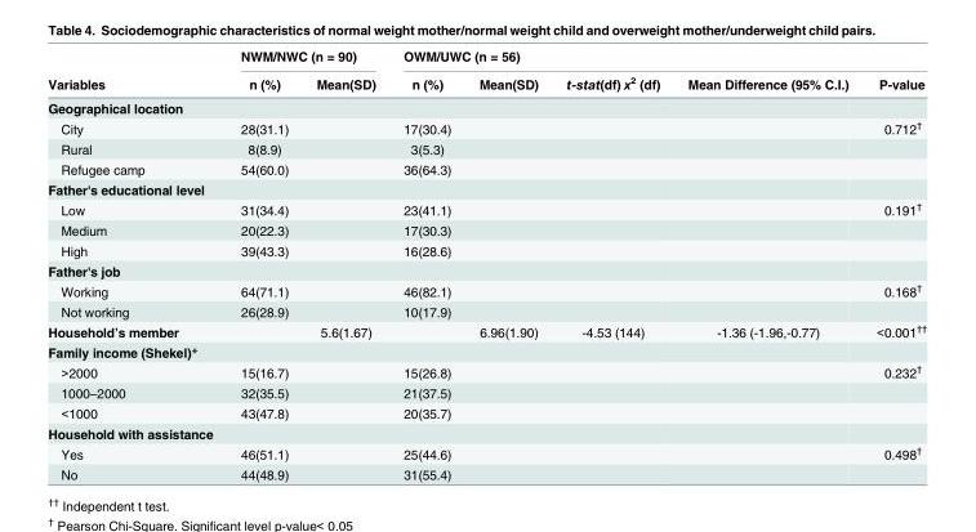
<table><thead><tr><td rowspan="2">Variables</td><td colspan="2">NWM/NWC (n = 90)</td><td colspan="5">OWM/UWC (n = 56)</td></tr><tr><td>n (%)</td><td>Mean(SD)</td><td>n (%)</td><td>Mean(SD)</td><td>t-stat(df) x<sup>2</sup> (df)</td><td>Mean Difference (95% C.I.)</td><td>P-value</td></tr></thead><tbody><tr><td colspan="8">Geographical location</td></tr><tr><td>City</td><td>28(31.1)</td><td></td><td>17(30.4)</td><td></td><td></td><td></td><td>0.712<sup>†</sup></td></tr><tr><td>Rural</td><td>8(8.9)</td><td></td><td>3(5.3)</td><td></td><td></td><td></td><td></td></tr><tr><td>Refugee camp</td><td>54(60.0)</td><td></td><td>36(64.3)</td><td></td><td></td><td></td><td></td></tr><tr><td colspan="8">Father&#x27;s educational level</td></tr><tr><td>Low</td><td>31(34.4)</td><td></td><td>23(41.1)</td><td></td><td></td><td></td><td>0.191<sup>†</sup></td></tr><tr><td>Medium</td><td>20(22.3)</td><td></td><td>17(30.3)</td><td></td><td></td><td></td><td></td></tr><tr><td>High</td><td>39(43.3)</td><td></td><td>16(28.6)</td><td></td><td></td><td></td><td></td></tr><tr><td colspan="8">Father&#x27;s job</td></tr><tr><td>Working</td><td>64(71.1)</td><td></td><td>46(82.1)</td><td></td><td></td><td></td><td>0.168<sup>†</sup></td></tr><tr><td>Not working</td><td>26(28.9)</td><td></td><td>10(17.9)</td><td></td><td></td><td></td><td></td></tr><tr><td>Household’s member</td><td></td><td>5.6(1.67)</td><td></td><td>6.96(1.90)</td><td>-4.53 (144)</td><td>-1.36 (-1.96,-0.77)</td><td>&lt;0.001<sup>††</sup></td></tr><tr><td colspan="8">Family income (Shekel)*</td></tr><tr><td>&gt;2000</td><td>15(16.7)</td><td></td><td>15(26.8)</td><td></td><td></td><td></td><td>0.232<sup>†</sup></td></tr><tr><td>1000–2000</td><td>32(35.5)</td><td></td><td>21(37.5)</td><td></td><td></td><td></td><td></td></tr><tr><td>&lt;1000</td><td>43(47.8)</td><td></td><td>20(35.7)</td><td></td><td></td><td></td><td></td></tr><tr><td colspan="8">Household with assistance</td></tr><tr><td>Yes</td><td>46(51.1)</td><td></td><td>25(44.6)</td><td></td><td></td><td></td><td>0.498<sup>†</sup></td></tr><tr><td>No</td><td>44(48.9)</td><td></td><td>31(55.4)</td><td></td><td></td><td></td><td></td></tr></tbody></table>